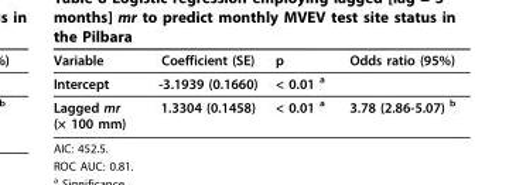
<table><thead><tr><td>Variable</td><td>Coefficient (SE)</td><td>p</td><td>Odds ratio (95%)</td></tr></thead><tbody><tr><td>Intercept</td><td>-3.1939 (0.1660)</td><td>&lt; 0.01 <sup>a</sup></td><td></td></tr><tr><td>Lagged mr (× 100 mm)</td><td>1.3304 (0.1458)</td><td>&lt; 0.01 <sup>a</sup></td><td>3.78 (2.86-5.07) <sup>b</sup></td></tr></tbody></table>